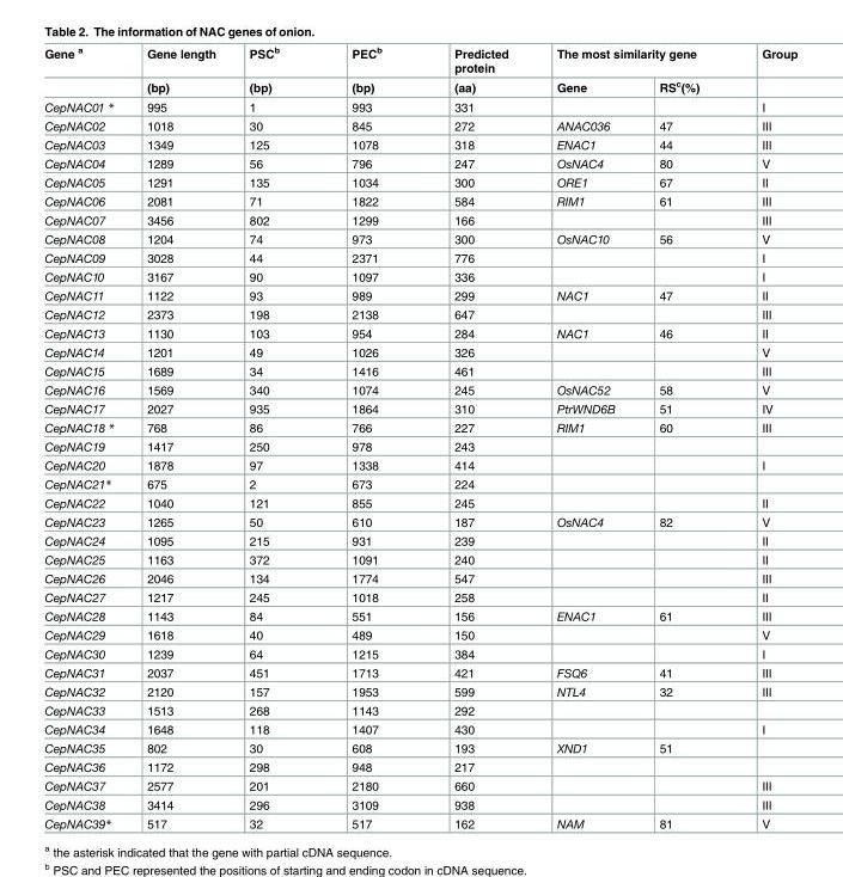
<table><thead><tr><td rowspan="2">Gene <sup>a</sup></td><td rowspan="2">Gene length (bp)</td><td rowspan="2">PSC<sup>b</sup> (bp)</td><td rowspan="2">PEC<sup>b</sup> (bp)</td><td rowspan="2">Predicted protein (aa)</td><td colspan="2">The most similarity gene</td><td rowspan="2">Group</td></tr><tr><td>Gene</td><td>RS<sup>c</sup>(%)</td></tr></thead><tbody><tr><td>CepNAC01 *</td><td>995</td><td>1</td><td>993</td><td>331</td><td></td><td></td><td>I</td></tr><tr><td>CepNAC02</td><td>1018</td><td>30</td><td>845</td><td>272</td><td>ANAC036</td><td>47</td><td>III</td></tr><tr><td>CepNAC03</td><td>1349</td><td>125</td><td>1078</td><td>318</td><td>ENAC1</td><td>44</td><td>III</td></tr><tr><td>CepNAC04</td><td>1289</td><td>56</td><td>796</td><td>247</td><td>OsNAC4</td><td>80</td><td>V</td></tr><tr><td>CepNAC05</td><td>1291</td><td>135</td><td>1034</td><td>300</td><td>ORE1</td><td>67</td><td>II</td></tr><tr><td>CepNAC06</td><td>2081</td><td>71</td><td>1822</td><td>584</td><td>RIM1</td><td>61</td><td>III</td></tr><tr><td>CepNAC07</td><td>3456</td><td>802</td><td>1299</td><td>166</td><td></td><td></td><td>III</td></tr><tr><td>CepNAC08</td><td>1204</td><td>74</td><td>973</td><td>300</td><td>OsNAC10</td><td>56</td><td>V</td></tr><tr><td>CepNAC09</td><td>3028</td><td>44</td><td>2371</td><td>776</td><td></td><td></td><td>I</td></tr><tr><td>CepNAC10</td><td>3167</td><td>90</td><td>1097</td><td>336</td><td></td><td></td><td>I</td></tr><tr><td>CepNAC11</td><td>1122</td><td>93</td><td>989</td><td>299</td><td>NAC1</td><td>47</td><td>II</td></tr><tr><td>CepNAC12</td><td>2373</td><td>198</td><td>2138</td><td>647</td><td></td><td></td><td>III</td></tr><tr><td>CepNAC13</td><td>1130</td><td>103</td><td>954</td><td>284</td><td>NAC1</td><td>46</td><td>II</td></tr><tr><td>CepNAC14</td><td>1201</td><td>49</td><td>1026</td><td>326</td><td></td><td></td><td>V</td></tr><tr><td>CepNAC15</td><td>1689</td><td>34</td><td>1416</td><td>461</td><td></td><td></td><td>III</td></tr><tr><td>CepNAC16</td><td>1569</td><td>340</td><td>1074</td><td>245</td><td>OsNAC52</td><td>58</td><td>V</td></tr><tr><td>CepNAC17</td><td>2027</td><td>935</td><td>1864</td><td>310</td><td>PtrWND6B</td><td>51</td><td>IV</td></tr><tr><td>CepNAC18 *</td><td>768</td><td>86</td><td>766</td><td>227</td><td>RIM1</td><td>60</td><td>III</td></tr><tr><td>CepNAC19</td><td>1417</td><td>250</td><td>978</td><td>243</td><td></td><td></td><td></td></tr><tr><td>CepNAC20</td><td>1878</td><td>97</td><td>1338</td><td>414</td><td></td><td></td><td>I</td></tr><tr><td>CepNAC21*</td><td>675</td><td>2</td><td>673</td><td>224</td><td></td><td></td><td></td></tr><tr><td>CepNAC22</td><td>1040</td><td>121</td><td>855</td><td>245</td><td></td><td></td><td>II</td></tr><tr><td>CepNAC23</td><td>1265</td><td>50</td><td>610</td><td>187</td><td>OsNAC4</td><td>82</td><td>V</td></tr><tr><td>CepNAC24</td><td>1095</td><td>215</td><td>931</td><td>239</td><td></td><td></td><td>II</td></tr><tr><td>CepNAC25</td><td>1163</td><td>372</td><td>1091</td><td>240</td><td></td><td></td><td>II</td></tr><tr><td>CepNAC26</td><td>2046</td><td>134</td><td>1774</td><td>547</td><td></td><td></td><td>III</td></tr><tr><td>CepNAC27</td><td>1217</td><td>245</td><td>1018</td><td>258</td><td></td><td></td><td>II</td></tr><tr><td>CepNAC28</td><td>1143</td><td>84</td><td>551</td><td>156</td><td>ENAC1</td><td>61</td><td>III</td></tr><tr><td>CepNAC29</td><td>1618</td><td>40</td><td>489</td><td>150</td><td></td><td></td><td>V</td></tr><tr><td>CepNAC30</td><td>1239</td><td>64</td><td>1215</td><td>384</td><td></td><td></td><td>I</td></tr><tr><td>CepNAC31</td><td>2037</td><td>451</td><td>1713</td><td>421</td><td>FSQ6</td><td>41</td><td>III</td></tr><tr><td>CepNAC32</td><td>2120</td><td>157</td><td>1953</td><td>599</td><td>NTL4</td><td>32</td><td>III</td></tr><tr><td>CepNAC33</td><td>1513</td><td>268</td><td>1143</td><td>292</td><td></td><td></td><td></td></tr><tr><td>CepNAC34</td><td>1648</td><td>118</td><td>1407</td><td>430</td><td></td><td></td><td>I</td></tr><tr><td>CepNAC35</td><td>802</td><td>30</td><td>608</td><td>193</td><td>XND1</td><td>51</td><td></td></tr><tr><td>CepNAC36</td><td>1172</td><td>298</td><td>948</td><td>217</td><td></td><td></td><td></td></tr><tr><td>CepNAC37</td><td>2577</td><td>201</td><td>2180</td><td>660</td><td></td><td></td><td>III</td></tr><tr><td>CepNAC38</td><td>3414</td><td>296</td><td>3109</td><td>938</td><td></td><td></td><td>III</td></tr><tr><td>CepNAC39*</td><td>517</td><td>32</td><td>517</td><td>162</td><td>NAM</td><td>81</td><td>V</td></tr></tbody></table>